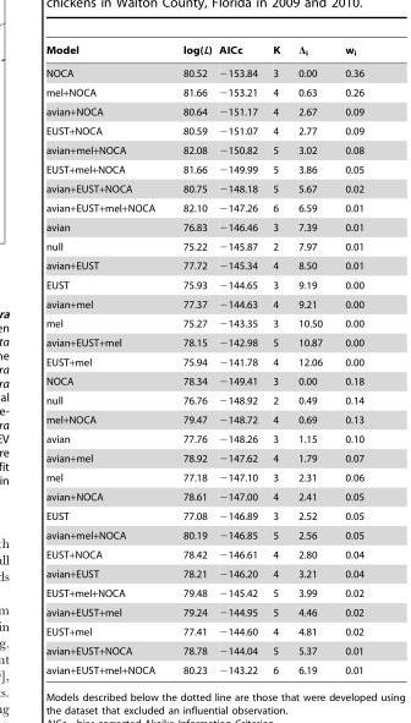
<table><thead><tr><td>Model</td><td>log(L)</td><td>AICc</td><td>K</td><td>Δ<sub>i</sub></td><td>w<sub>i</sub></td></tr></thead><tbody><tr><td>NOCA</td><td>80.52</td><td>−153.84</td><td>3</td><td>0.00</td><td>0.36</td></tr><tr><td>mel+NOCA</td><td>81.66</td><td>−153.21</td><td>4</td><td>0.63</td><td>0.26</td></tr><tr><td>avian+NOCA</td><td>80.64</td><td>−151.17</td><td>4</td><td>2.67</td><td>0.09</td></tr><tr><td>EUST+NOCA</td><td>80.59</td><td>−151.07</td><td>4</td><td>2.77</td><td>0.09</td></tr><tr><td>avian+mel+NOCA</td><td>82.08</td><td>−150.82</td><td>5</td><td>3.02</td><td>0.08</td></tr><tr><td>EUST+mel+NOCA</td><td>81.66</td><td>−149.99</td><td>5</td><td>3.86</td><td>0.05</td></tr><tr><td>avian+EUST+NOCA</td><td>80.75</td><td>−148.18</td><td>5</td><td>5.67</td><td>0.02</td></tr><tr><td>avian+EUST+mel+NOCA</td><td>82.10</td><td>−147.26</td><td>6</td><td>6.59</td><td>0.01</td></tr><tr><td>avian</td><td>76.83</td><td>−146.46</td><td>3</td><td>7.39</td><td>0.01</td></tr><tr><td>null</td><td>75.22</td><td>−145.87</td><td>2</td><td>7.97</td><td>0.01</td></tr><tr><td>avian+EUST</td><td>77.72</td><td>−145.34</td><td>4</td><td>8.50</td><td>0.01</td></tr><tr><td>EUST</td><td>75.93</td><td>−144.65</td><td>3</td><td>9.19</td><td>0.00</td></tr><tr><td>avian+mel</td><td>77.37</td><td>−144.63</td><td>4</td><td>9.21</td><td>0.00</td></tr><tr><td>mel</td><td>75.27</td><td>−143.35</td><td>3</td><td>10.50</td><td>0.00</td></tr><tr><td>avian+EUST+mel</td><td>78.15</td><td>−142.98</td><td>5</td><td>10.87</td><td>0.00</td></tr><tr><td>EUST+mel</td><td>75.94</td><td>−141.78</td><td>4</td><td>12.06</td><td>0.00</td></tr><tr><td>NOCA</td><td>78.34</td><td>−149.41</td><td>3</td><td>0.00</td><td>0.18</td></tr><tr><td>null</td><td>76.76</td><td>−148.92</td><td>2</td><td>0.49</td><td>0.14</td></tr><tr><td>mel+NOCA</td><td>79.47</td><td>−148.72</td><td>4</td><td>0.69</td><td>0.13</td></tr><tr><td>avian</td><td>77.76</td><td>−148.26</td><td>3</td><td>1.15</td><td>0.10</td></tr><tr><td>avian+mel</td><td>78.92</td><td>−147.62</td><td>4</td><td>1.79</td><td>0.07</td></tr><tr><td>mel</td><td>77.18</td><td>−147.10</td><td>3</td><td>2.31</td><td>0.06</td></tr><tr><td>avian+NOCA</td><td>78.61</td><td>−147.00</td><td>4</td><td>2.41</td><td>0.05</td></tr><tr><td>EUST</td><td>77.08</td><td>−146.89</td><td>3</td><td>2.52</td><td>0.05</td></tr><tr><td>avian+mel+NOCA</td><td>80.19</td><td>−146.85</td><td>5</td><td>2.56</td><td>0.05</td></tr><tr><td>EUST+NOCA</td><td>78.42</td><td>−146.61</td><td>4</td><td>2.80</td><td>0.04</td></tr><tr><td>avian+EUST</td><td>78.21</td><td>−146.20</td><td>4</td><td>3.21</td><td>0.04</td></tr><tr><td>EUST+mel+NOCA</td><td>79.48</td><td>−145.42</td><td>5</td><td>3.99</td><td>0.02</td></tr><tr><td>avian+EUST+mel</td><td>79.24</td><td>−144.95</td><td>5</td><td>4.46</td><td>0.02</td></tr><tr><td>EUST+mel</td><td>77.41</td><td>−144.60</td><td>4</td><td>4.81</td><td>0.02</td></tr><tr><td>avian+EUST+NOCA</td><td>78.78</td><td>−144.04</td><td>5</td><td>5.37</td><td>0.01</td></tr><tr><td>avian+EUST+mel+NOCA</td><td>80.23</td><td>−143.22</td><td>6</td><td>6.19</td><td>0.01</td></tr></tbody></table>